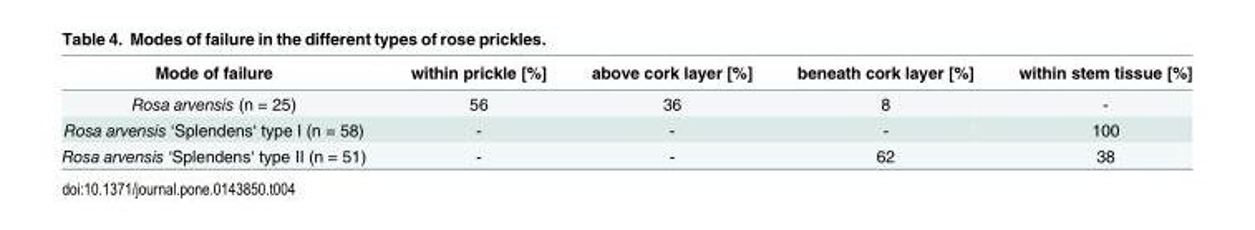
<table><thead><tr><td>Mode of failure</td><td>within prickle [%]</td><td>above cork layer [%]</td><td>beneath cork layer [%]</td><td>within stem tissue [%]</td></tr></thead><tbody><tr><td>Rosa arvensis (n = 25)</td><td>56</td><td>36</td><td>8</td><td>-</td></tr><tr><td>Rosa arvensis ‘Splendens‘ type I (n = 58)</td><td>-</td><td>-</td><td>-</td><td>100</td></tr><tr><td>Rosa arvensis ‘Splendens‘ type II (n = 51)</td><td>-</td><td>-</td><td>62</td><td>38</td></tr></tbody></table>